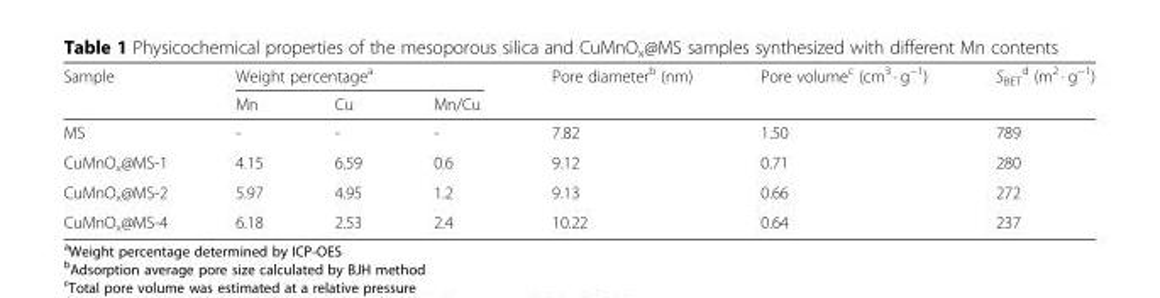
<table><thead><tr><td rowspan="2">Sample</td><td colspan="3">Weight percentage<sup>a</sup></td><td rowspan="2">Pore diameter<sup>b</sup> (nm)</td><td rowspan="2">Pore volume<sup>c</sup> (cm<sup>3</sup> · g<sup>−1</sup>)</td><td rowspan="2">S<sub>BET</sub> <sup>d</sup> (m<sup>2</sup> · g<sup>−1</sup>)</td></tr><tr><td>Mn</td><td>Cu</td><td>Mn/Cu</td></tr></thead><tbody><tr><td>MS</td><td>-</td><td>-</td><td>-</td><td>7.82</td><td>1.50</td><td>789</td></tr><tr><td>CuMnO<sub>x</sub>@MS-1</td><td>4.15</td><td>6.59</td><td>0.6</td><td>9.12</td><td>0.71</td><td>280</td></tr><tr><td>CuMnO<sub>x</sub>@MS-2</td><td>5.97</td><td>4.95</td><td>1.2</td><td>9.13</td><td>0.66</td><td>272</td></tr><tr><td>CuMnO<sub>x</sub>@MS-4</td><td>6.18</td><td>2.53</td><td>2.4</td><td>10.22</td><td>0.64</td><td>237</td></tr></tbody></table>